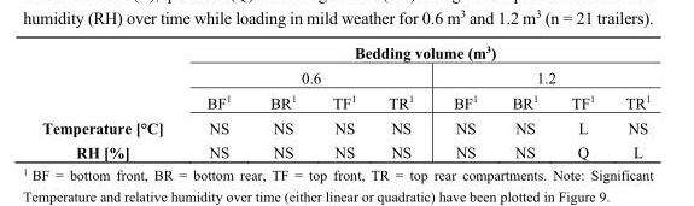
<table><thead><tr><td rowspan="3"></td><td colspan="8">Bedding volume (m<sup>3</sup>)</td></tr><tr><td colspan="4">0.6</td><td colspan="4">1.2</td></tr><tr><td>BF<sup>1</sup></td><td>BR<sup>1</sup></td><td>TF<sup>1</sup></td><td>TR<sup>1</sup></td><td>BF<sup>1</sup></td><td>BR<sup>1</sup></td><td>TF<sup>1</sup></td><td>TR<sup>1</sup></td></tr></thead><tbody><tr><td>Temperature [°C]</td><td>NS</td><td>NS</td><td>NS</td><td>NS</td><td>NS</td><td>NS</td><td>L</td><td>NS</td></tr><tr><td>RH [%]</td><td>NS</td><td>NS</td><td>NS</td><td>NS</td><td>NS</td><td>NS</td><td>Q</td><td>L</td></tr></tbody></table>